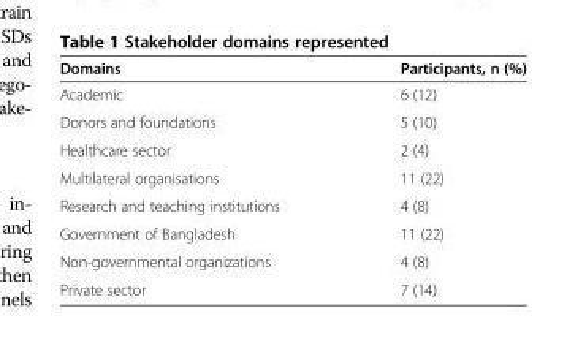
<table><thead><tr><td>Domains</td><td>Participants, n (%)</td></tr></thead><tbody><tr><td>Academic</td><td>6 (12)</td></tr><tr><td>Donors and foundations</td><td>5 (10)</td></tr><tr><td>Healthcare sector</td><td>2 (4)</td></tr><tr><td>Multilateral organisations</td><td>11 (22)</td></tr><tr><td>Research and teaching institutions</td><td>4 (8)</td></tr><tr><td>Government of Bangladesh</td><td>11 (22)</td></tr><tr><td>Non-governmental organizations</td><td>4 (8)</td></tr><tr><td>Private sector</td><td>7 (14)</td></tr></tbody></table>